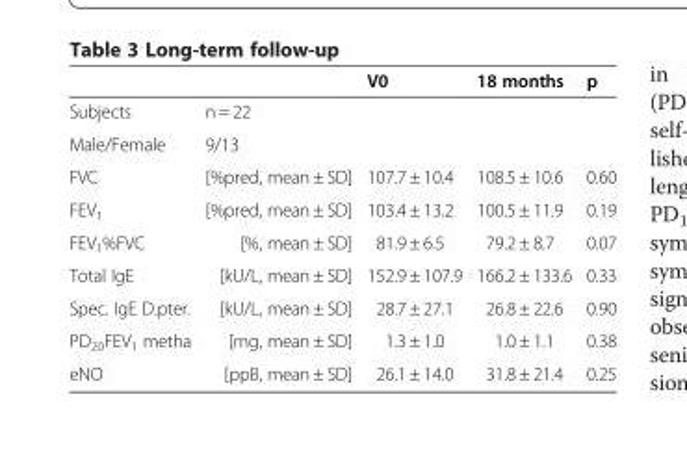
<table><thead><tr><td></td><td></td><td>V0</td><td>18 months</td><td>p</td></tr></thead><tbody><tr><td>Subjects</td><td>n = 22</td><td></td><td></td><td></td></tr><tr><td>Male/Female</td><td>9/13</td><td></td><td></td><td></td></tr><tr><td>FVC</td><td>[%pred, mean ± SD]</td><td>107.7 ± 10.4</td><td>108.5 ± 10.6</td><td>0.60</td></tr><tr><td>FEV<sub>1</sub></td><td>[%pred, mean ± SD]</td><td>103.4 ± 13.2</td><td>100.5 ± 11.9</td><td>0.19</td></tr><tr><td>FEV<sub>1</sub>%FVC</td><td>[%, mean ± SD]</td><td>81.9 ± 6.5</td><td>79.2 ± 8.7</td><td>0.07</td></tr><tr><td>Total IgE</td><td>[kU/L, mean ± SD]</td><td>152.9 ± 107.9</td><td>166.2 ± 133.6</td><td>0.33</td></tr><tr><td>Spec. IgE D.pter.</td><td>[kU/L, mean ± SD]</td><td>28.7 ± 27.1</td><td>26.8 ± 22.6</td><td>0.90</td></tr><tr><td>PD<sub>20</sub>FEV<sub>1</sub> metha</td><td>[mg, mean ± SD]</td><td>1.3 ± 1.0</td><td>1.0 ± 1.1</td><td>0.38</td></tr><tr><td>eNO</td><td>[ppB, mean ± SD]</td><td>26.1 ± 14.0</td><td>31.8 ± 21.4</td><td>0.25</td></tr></tbody></table>